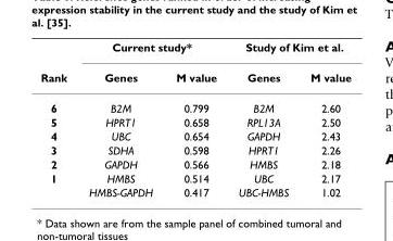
<table><thead><tr><td rowspan="2">Rank</td><td colspan="2">Current study*</td><td colspan="2">Study of Kim et al.</td></tr><tr><td>Genes</td><td>M value</td><td>Genes</td><td>M value</td></tr></thead><tbody><tr><td>6</td><td>B2M</td><td>0.799</td><td>B2M</td><td>2.60</td></tr><tr><td>5</td><td>HPRT1</td><td>0.658</td><td>RPL13A</td><td>2.50</td></tr><tr><td>4</td><td>UBC</td><td>0.654</td><td>GAPDH</td><td>2.43</td></tr><tr><td>3</td><td>SDHA</td><td>0.598</td><td>HPRT1</td><td>2.26</td></tr><tr><td>2</td><td>GAPDH</td><td>0.566</td><td>HMBS</td><td>2.18</td></tr><tr><td rowspan="2">1</td><td>HMBS</td><td>0.514</td><td>UBC</td><td>2.17</td></tr><tr><td>HMBS-GAPDH</td><td>0.417</td><td>UBC-HMBS</td><td>1.02</td></tr></tbody></table>